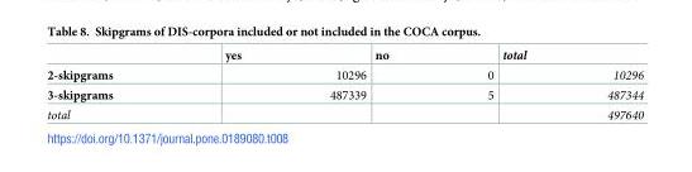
<table><thead><tr><td></td><td>yes</td><td>no</td><td>total</td></tr></thead><tbody><tr><td>2-skipgrams</td><td>10296</td><td>0</td><td>10296</td></tr><tr><td>3-skipgrams</td><td>487339</td><td>5</td><td>487344</td></tr><tr><td>total</td><td></td><td></td><td>497640</td></tr></tbody></table>